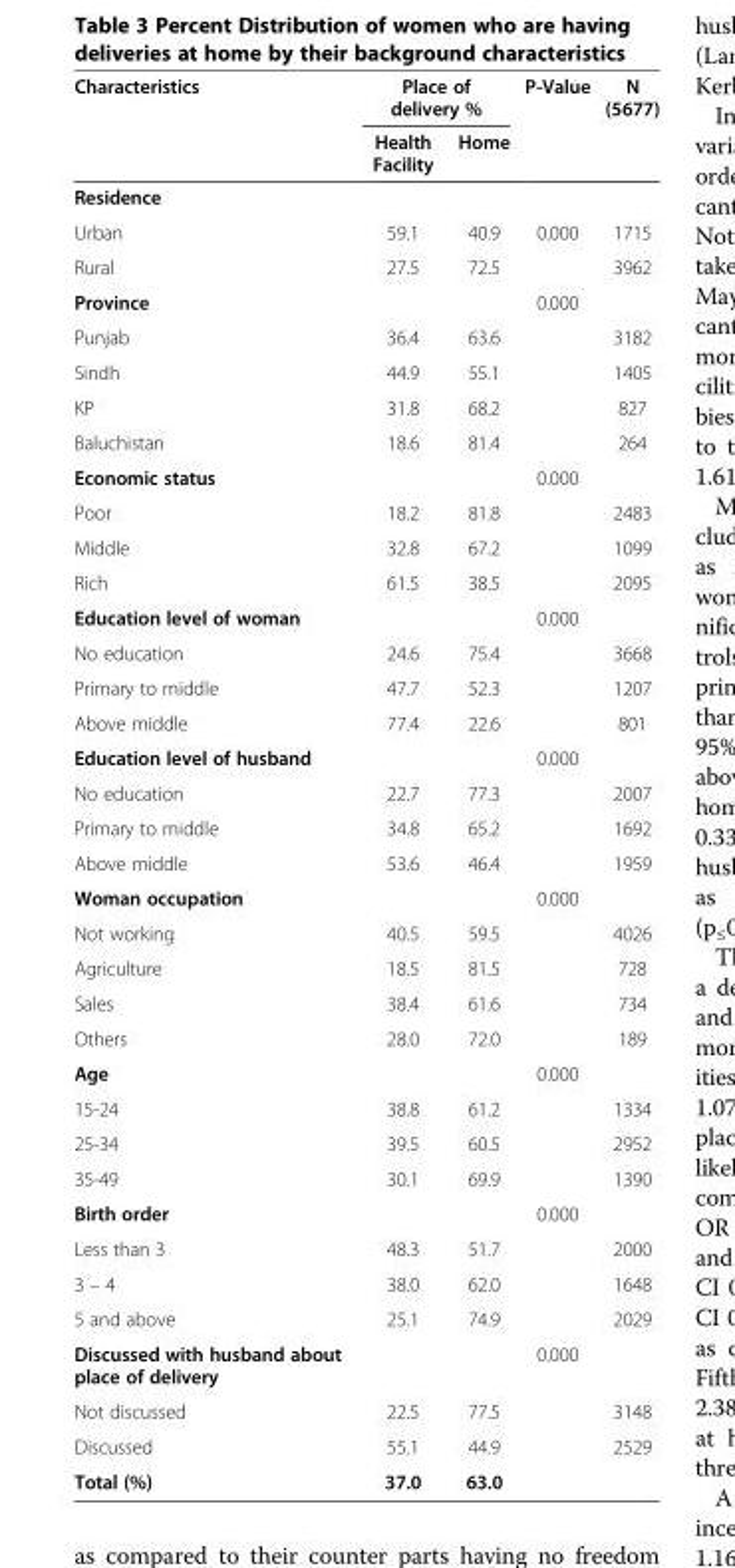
<table><thead><tr><td rowspan="2">Characteristics</td><td colspan="2">Place of delivery %</td><td rowspan="2">P-Value</td><td rowspan="2">N (5677)</td></tr><tr><td>Health Facility</td><td>Home</td></tr></thead><tbody><tr><td colspan="5">Residence</td></tr><tr><td>Urban</td><td>59.1</td><td>40.9</td><td>0.000</td><td>1715</td></tr><tr><td>Rural</td><td>27.5</td><td>72.5</td><td></td><td>3962</td></tr><tr><td>Province</td><td></td><td></td><td>0.000</td><td></td></tr><tr><td>Punjab</td><td>36.4</td><td>63.6</td><td></td><td>3182</td></tr><tr><td>Sindh</td><td>44.9</td><td>55.1</td><td></td><td>1405</td></tr><tr><td>KP</td><td>31.8</td><td>68.2</td><td></td><td>827</td></tr><tr><td>Baluchistan</td><td>18.6</td><td>81.4</td><td></td><td>264</td></tr><tr><td>Economic status</td><td></td><td></td><td>0.000</td><td></td></tr><tr><td>Poor</td><td>18.2</td><td>81.8</td><td></td><td>2483</td></tr><tr><td>Middle</td><td>32.8</td><td>67.2</td><td></td><td>1099</td></tr><tr><td>Rich</td><td>61.5</td><td>38.5</td><td></td><td>2095</td></tr><tr><td>Education level of woman</td><td></td><td></td><td>0.000</td><td></td></tr><tr><td>No education</td><td>24.6</td><td>75.4</td><td></td><td>3668</td></tr><tr><td>Primary to middle</td><td>47.7</td><td>52.3</td><td></td><td>1207</td></tr><tr><td>Above middle</td><td>77.4</td><td>22.6</td><td></td><td>801</td></tr><tr><td>Education level of husband</td><td></td><td></td><td>0.000</td><td></td></tr><tr><td>No education</td><td>22.7</td><td>77.3</td><td></td><td>2007</td></tr><tr><td>Primary to middle</td><td>34.8</td><td>65.2</td><td></td><td>1692</td></tr><tr><td>Above middle</td><td>53.6</td><td>46.4</td><td></td><td>1959</td></tr><tr><td>Woman occupation</td><td></td><td></td><td>0.000</td><td></td></tr><tr><td>Not working</td><td>40.5</td><td>59.5</td><td></td><td>4026</td></tr><tr><td>Agriculture</td><td>18.5</td><td>81.5</td><td></td><td>728</td></tr><tr><td>Sales</td><td>38.4</td><td>61.6</td><td></td><td>734</td></tr><tr><td>Others</td><td>28.0</td><td>72.0</td><td></td><td>189</td></tr><tr><td>Age</td><td></td><td></td><td>0.000</td><td></td></tr><tr><td>15-24</td><td>38.8</td><td>61.2</td><td></td><td>1334</td></tr><tr><td>25-34</td><td>39.5</td><td>60.5</td><td></td><td>2952</td></tr><tr><td>35-49</td><td>30.1</td><td>69.9</td><td></td><td>1390</td></tr><tr><td>Birth order</td><td></td><td></td><td>0.000</td><td></td></tr><tr><td>Less than 3</td><td>48.3</td><td>51.7</td><td></td><td>2000</td></tr><tr><td>3 – 4</td><td>38.0</td><td>62.0</td><td></td><td>1648</td></tr><tr><td>5 and above</td><td>25.1</td><td>74.9</td><td></td><td>2029</td></tr><tr><td>Discussed with husband about place of delivery</td><td></td><td></td><td>0.000</td><td></td></tr><tr><td>Not discussed</td><td>22.5</td><td>77.5</td><td></td><td>3148</td></tr><tr><td>Discussed</td><td>55.1</td><td>44.9</td><td></td><td>2529</td></tr><tr><td>Total (%)</td><td>37.0</td><td>63.0</td><td></td><td></td></tr></tbody></table>